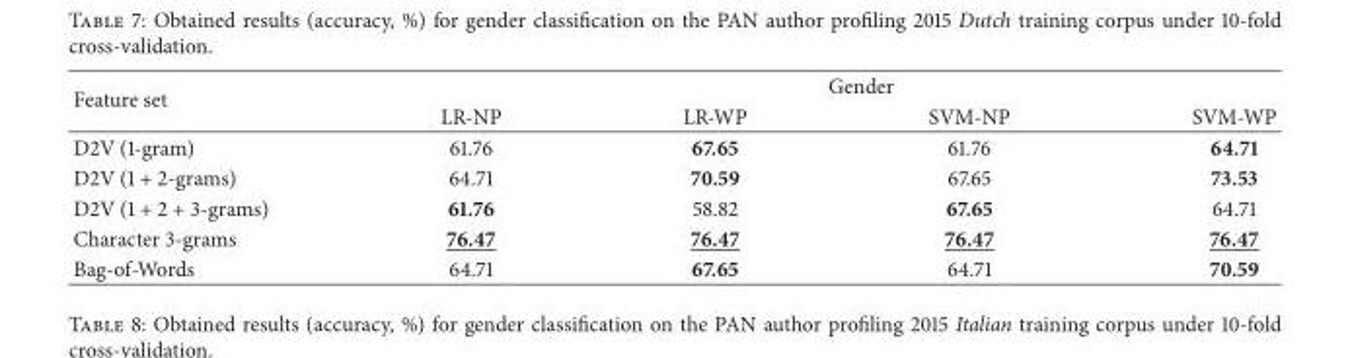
<table><thead><tr><td rowspan="2">Feature set</td><td colspan="4">Gender</td></tr><tr><td>LR-NP</td><td>LR-WP</td><td>SVM-NP</td><td>SVM-WP</td></tr></thead><tbody><tr><td>D2V (1-gram)</td><td>61.76</td><td>67.65</td><td>61.76</td><td>64.71</td></tr><tr><td>D2V (1 + 2-grams)</td><td>64.71</td><td>70.59</td><td>67.65</td><td>73.53</td></tr><tr><td>D2V (1 + 2 + 3-grams)</td><td>61.76</td><td>58.82</td><td>67.65</td><td>64.71</td></tr><tr><td>Character 3-grams</td><td>76.47</td><td>76.47</td><td>76.47</td><td>76.47</td></tr><tr><td>Bag-of-Words</td><td>64.71</td><td>67.65</td><td>64.71</td><td>70.59</td></tr></tbody></table>